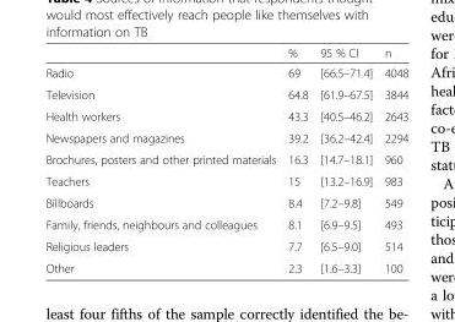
<table><thead><tr><td></td><td>%</td><td>95 % CI</td><td>n</td></tr></thead><tbody><tr><td>Radio</td><td>69</td><td>[66.5–71.4]</td><td>4048</td></tr><tr><td>Television</td><td>64.8</td><td>[61.9–67.5]</td><td>3844</td></tr><tr><td>Health workers</td><td>43.3</td><td>[40.5–46.2]</td><td>2643</td></tr><tr><td>Newspapers and magazines</td><td>39.2</td><td>[36.2–42.4]</td><td>2294</td></tr><tr><td>Brochures, posters and other printed materials</td><td>16.3</td><td>[14.7–18.1]</td><td>960</td></tr><tr><td>Teachers</td><td>15</td><td>[13.2–16.9]</td><td>983</td></tr><tr><td>Billboards</td><td>8.4</td><td>[7.2–9.8]</td><td>549</td></tr><tr><td>Family, friends, neighbours and colleagues</td><td>8.1</td><td>[6.9–9.5]</td><td>493</td></tr><tr><td>Religious leaders</td><td>7.7</td><td>[6.5–9.0]</td><td>514</td></tr><tr><td>Other</td><td>2.3</td><td>[1.6–3.3]</td><td>100</td></tr></tbody></table>